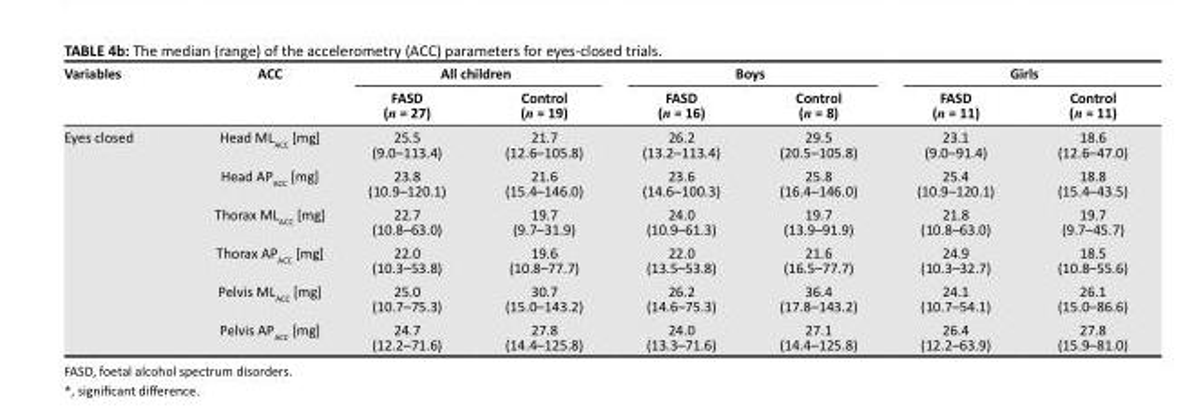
<table><thead><tr><td rowspan="2">Variables</td><td rowspan="2">ACC</td><td colspan="2">All children</td><td colspan="2">Boys</td><td colspan="2">Girls</td></tr><tr><td>FASD (n = 27)</td><td>Control (n = 19)</td><td>FASD (n = 16)</td><td>Control (n = 8)</td><td>FASD (n = 11)</td><td>Control (n = 11)</td></tr></thead><tbody><tr><td rowspan="6">Eyes closed</td><td>Head ML<sub>ACC</sub> [mg]</td><td>25.5 (9.0–113.4)</td><td>21.7 (12.6–105.8)</td><td>26.2 (13.2–113.4)</td><td>29.5 (20.5–105.8)</td><td>23.1 (9.0–91.4)</td><td>18.6 (12.6–47.0)</td></tr><tr><td>Head AP<sub>ACC</sub> [mg]</td><td>23.8 (10.9–120.1)</td><td>21.6 (15.4–146.0)</td><td>23.6 (14.6–100.3)</td><td>25.8 (16.4–146.0)</td><td>25.4 (10.9–120.1)</td><td>18.8 (15.4–43.5)</td></tr><tr><td>Thorax ML<sub>ACC</sub> [mg]</td><td>22.7 (10.8–63.0)</td><td>19.7 (9.7–31.9)</td><td>24.0 (10.9–61.3)</td><td>19.7 (13.9–91.9)</td><td>21.8 (10.8–63.0)</td><td>19.7 (9.7–45.7)</td></tr><tr><td>Thorax AP<sub>ACC</sub> [mg]</td><td>22.0 (10.3–53.8)</td><td>19.6 (10.8–77.7)</td><td>22.0 (13.5–53.8)</td><td>21.6 (16.5–77.7)</td><td>24.9 (10.3–32.7)</td><td>18.5 (10.8–55.6)</td></tr><tr><td>Pelvis ML<sub>ACC</sub> [mg]</td><td>25.0 (10.7–75.3)</td><td>30.7 (15.0–143.2)</td><td>26.2 (14.6–75.3)</td><td>36.4 (17.8–143.2)</td><td>24.1 (10.7–54.1)</td><td>26.1 (15.0–86.6)</td></tr><tr><td>Pelvis AP<sub>ACC</sub> [mg]</td><td>24.7 (12.2–71.6)</td><td>27.8 (14.4–125.8)</td><td>24.0 (13.3–71.6)</td><td>27.1 (14.4–125.8)</td><td>26.4 (12.2–63.9)</td><td>27.8 (15.9–81.0)</td></tr></tbody></table>